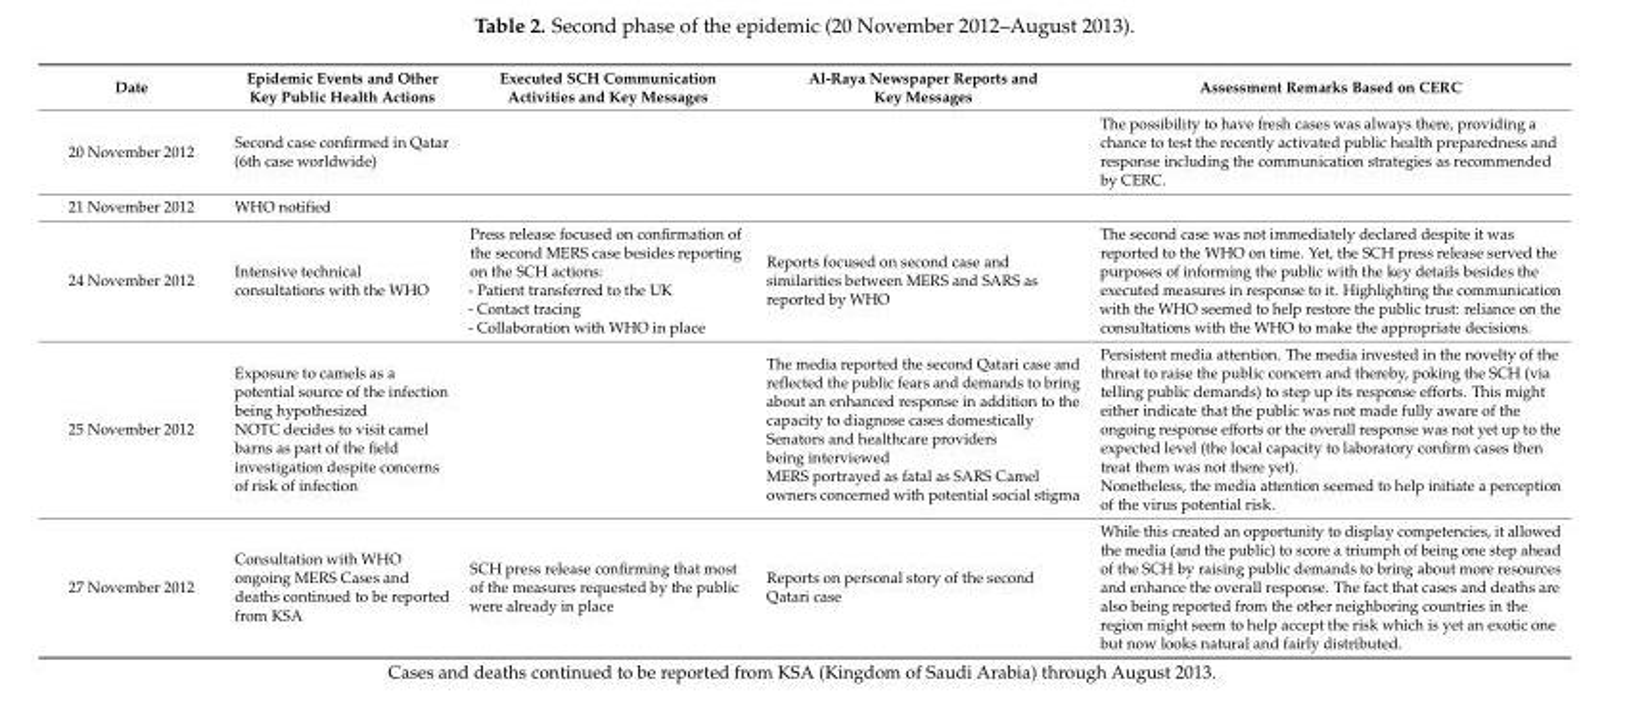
<table><thead><tr><td>Date</td><td>Epidemic Events and Other Key Public Health Actions</td><td>Executed SCH Communication Activities and Key Messages</td><td>Al-Raya Newspaper Reports and Key Messages</td><td>Assessment Remarks Based on CERC</td></tr></thead><tbody><tr><td>20 November 2012</td><td>Second case confirmed in Qatar (6th case worldwide)</td><td></td><td></td><td>The possibility to have fresh cases was always there, providing a chance to test the recently activated public health preparedness and response including the communication strategies as recommended by CERC.</td></tr><tr><td>21 November 2012</td><td>WHO notified</td><td></td><td></td><td></td></tr><tr><td>24 November 2012</td><td>Intensive technical consultations with the WHO</td><td>Press release focused on confirmation of the second MERS case besides reporting on the SCH actions: - Patient transferred to the UK - Contact tracing - Collaboration with WHO in place</td><td>Reports focused on second case and similarities between MERS and SARS as reported by WHO</td><td>The second case was not immediately declared despite it was reported to the WHO on time. Yet, the SCH press release served the purposes of informing the public with the key details besides the executed measures in response to it. Highlighting the communication with the WHO seemed to help restore the public trust: reliance on the consultations with the WHO to make the appropriate decisions.</td></tr><tr><td>25 November 2012</td><td>Exposure to camels as a potential source of the infection being hypothesized NOTC decides to visit camel barns as part of the field investigation despite concerns of risk of infection</td><td></td><td>The media reported the second Qatari case and reflected the public fears and demands to bring about an enhanced response in addition to the capacity to diagnose cases domestically Senators and healthcare providers being interviewed MERS portrayed as fatal as SARS Camel owners concerned with potential social stigma</td><td>Persistent media attention. The media invested in the novelty of the threat to raise the public concern and thereby, poking the SCH (via telling public demands) to step up its response efforts. This might either indicate that the public was not made fully aware of the ongoing response efforts or the overall response was not yet up to the expected level (the local capacity to laboratory confirm cases then treat them was not there yet). Nonetheless, the media attention seemed to help initiate a perception of the virus potential risk.</td></tr><tr><td>27 November 2012</td><td>Consultation with WHO ongoing MERS Cases and deaths continued to be reported from KSA</td><td>SCH press release confirming that most of the measures requested by the public were already in place</td><td>Reports on personal story of the second Qatari case</td><td>While this created an opportunity to display competencies, it allowed the media (and the public) to score a triumph of being one step ahead of the SCH by raising public demands to bring about more resources and enhance the overall response. The fact that cases and deaths are also being reported from the other neighboring countries in the region might seem to help accept the risk which is yet an exotic one but now looks natural and fairly distributed.</td></tr></tbody></table>